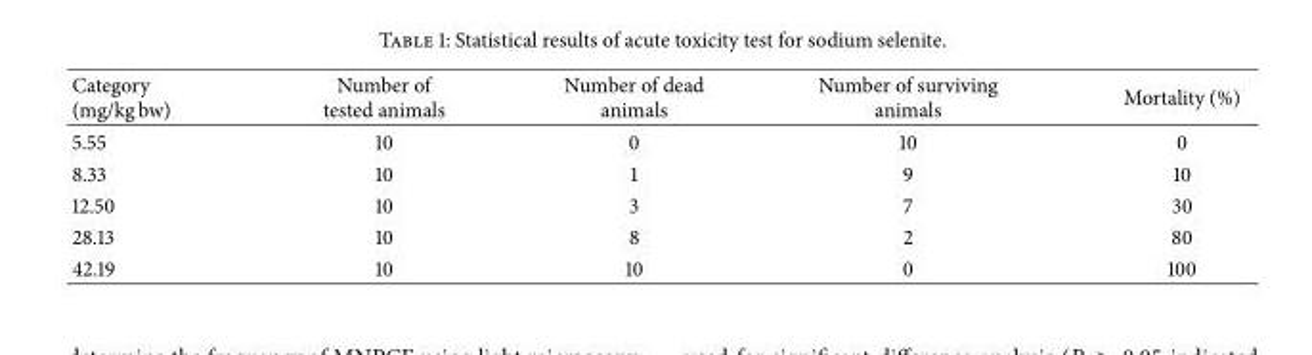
<table><thead><tr><td>Category (mg/kg bw)</td><td>Number of tested animals</td><td>Number of dead animals</td><td>Number of surviving animals</td><td>Mortality (%)</td></tr></thead><tbody><tr><td>5.55</td><td>10</td><td>0</td><td>10</td><td>0</td></tr><tr><td>8.33</td><td>10</td><td>1</td><td>9</td><td>10</td></tr><tr><td>12.50</td><td>10</td><td>3</td><td>7</td><td>30</td></tr><tr><td>28.13</td><td>10</td><td>8</td><td>2</td><td>80</td></tr><tr><td>42.19</td><td>10</td><td>10</td><td>0</td><td>100</td></tr></tbody></table>